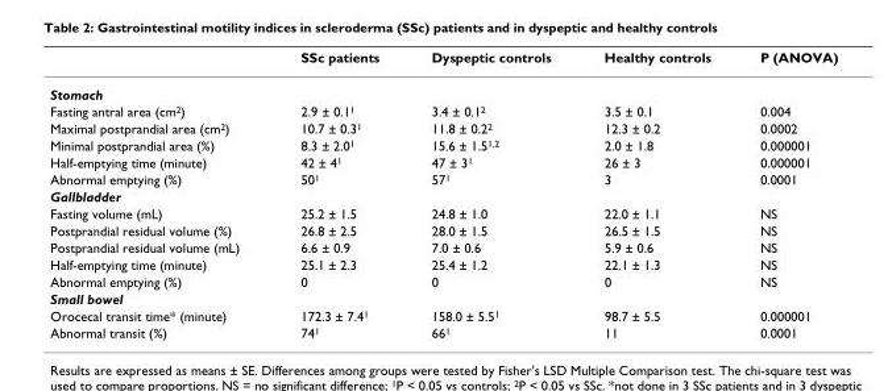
<table><thead><tr><td></td><td>SSc patients</td><td>Dyspeptic controls</td><td>Healthy controls</td><td>P (ANOVA)</td></tr></thead><tbody><tr><td colspan="5">Stomach</td></tr><tr><td>Fasting antral area (cm<sup>2</sup>)</td><td>2.9 ± 0.1<sup>1</sup></td><td>3.4 ± 0.1<sup>2</sup></td><td>3.5 ± 0.1</td><td>0.004</td></tr><tr><td>Maximal postprandial area (cm<sup>2</sup>)</td><td>10.7 ± 0.3<sup>1</sup></td><td>11.8 ± 0.2<sup>2</sup></td><td>12.3 ± 0.2</td><td>0.0002</td></tr><tr><td>Minimal postprandial area (%)</td><td>8.3 ± 2.0<sup>1</sup></td><td>15.6 ± 1.5<sup>1,2</sup></td><td>2.0 ± 1.8</td><td>0.000001</td></tr><tr><td>Half-emptying time (minute)</td><td>42 ± 4<sup>1</sup></td><td>47 ± 3<sup>1</sup></td><td>26 ± 3</td><td>0.000001</td></tr><tr><td>Abnormal emptying (%)</td><td>50<sup>1</sup></td><td>57<sup>1</sup></td><td>3</td><td>0.0001</td></tr><tr><td colspan="5">Gallbladder</td></tr><tr><td>Fasting volume (mL)</td><td>25.2 ± 1.5</td><td>24.8 ± 1.0</td><td>22.0 ± 1.1</td><td>NS</td></tr><tr><td>Postprandial residual volume (%)</td><td>26.8 ± 2.5</td><td>28.0 ± 1.5</td><td>26.5 ± 1.5</td><td>NS</td></tr><tr><td>Postprandial residual volume (mL)</td><td>6.6 ± 0.9</td><td>7.0 ± 0.6</td><td>5.9 ± 0.6</td><td>NS</td></tr><tr><td>Half-emptying time (minute)</td><td>25.1 ± 2.3</td><td>25.4 ± 1.2</td><td>22.1 ± 1.3</td><td>NS</td></tr><tr><td>Abnormal emptying (%)</td><td>0</td><td>0</td><td>0</td><td>NS</td></tr><tr><td colspan="5">Small bowel</td></tr><tr><td>Orocecal transit time* (minute)</td><td>172.3 ± 7.4<sup>1</sup></td><td>158.0 ± 5.5<sup>1</sup></td><td>98.7 ± 5.5</td><td>0.000001</td></tr><tr><td>Abnormal transit (%)</td><td>74<sup>1</sup></td><td>66<sup>1</sup></td><td>11</td><td>0.0001</td></tr></tbody></table>